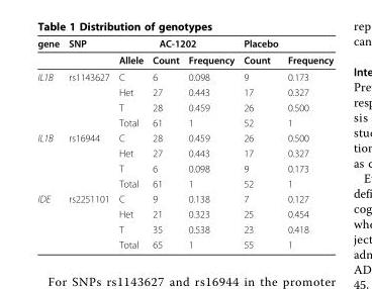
<table><thead><tr><td rowspan="2">gene</td><td rowspan="2">SNP</td><td colspan="3">AC-1202</td><td rowspan="2">Placebo Count</td><td rowspan="2">Frequency</td></tr><tr><td>Allele</td><td>Count</td><td>Frequency</td></tr></thead><tbody><tr><td rowspan="4">IL1B</td><td>rs1143627</td><td>C</td><td>6</td><td>0.098</td><td>9</td><td>0.173</td></tr><tr><td></td><td>Het</td><td>27</td><td>0.443</td><td>17</td><td>0.327</td></tr><tr><td></td><td>T</td><td>28</td><td>0.459</td><td>26</td><td>0.500</td></tr><tr><td></td><td>Total</td><td>61</td><td>1</td><td>52</td><td>1</td></tr><tr><td rowspan="4">IL1B</td><td>rs16944</td><td>C</td><td>28</td><td>0.459</td><td>26</td><td>0.500</td></tr><tr><td></td><td>Het</td><td>27</td><td>0.443</td><td>17</td><td>0.327</td></tr><tr><td></td><td>T</td><td>6</td><td>0.098</td><td>9</td><td>0.173</td></tr><tr><td></td><td>Total</td><td>61</td><td>1</td><td>52</td><td>1</td></tr><tr><td rowspan="4">IDE</td><td>rs2251101</td><td>C</td><td>9</td><td>0.138</td><td>7</td><td>0.127</td></tr><tr><td></td><td>Het</td><td>21</td><td>0.323</td><td>25</td><td>0.454</td></tr><tr><td></td><td>T</td><td>35</td><td>0.538</td><td>23</td><td>0.418</td></tr><tr><td></td><td>Total</td><td>65</td><td>1</td><td>55</td><td>1</td></tr></tbody></table>